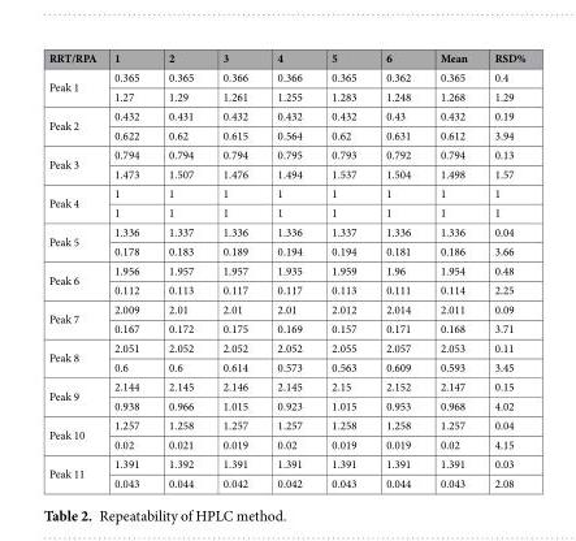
<table><thead><tr><td>RRT/RPA</td><td>1</td><td>2</td><td>3</td><td>4</td><td>5</td><td>6</td><td>Mean</td><td>RSD%</td></tr></thead><tbody><tr><td rowspan="2">Peak 1</td><td>0.365</td><td>0.365</td><td>0.366</td><td>0.366</td><td>0.365</td><td>0.362</td><td>0.365</td><td>0.4</td></tr><tr><td>1.27</td><td>1.29</td><td>1.261</td><td>1.255</td><td>1.283</td><td>1.248</td><td>1.268</td><td>1.29</td></tr><tr><td rowspan="2">Peak 2</td><td>0.432</td><td>0.431</td><td>0.432</td><td>0.432</td><td>0.432</td><td>0.43</td><td>0.432</td><td>0.19</td></tr><tr><td>0.622</td><td>0.62</td><td>0.615</td><td>0.564</td><td>0.62</td><td>0.631</td><td>0.612</td><td>3.94</td></tr><tr><td rowspan="2">Peak 3</td><td>0.794</td><td>0.794</td><td>0.794</td><td>0.795</td><td>0.793</td><td>0.792</td><td>0.794</td><td>0.13</td></tr><tr><td>1.473</td><td>1.507</td><td>1.476</td><td>1.494</td><td>1.537</td><td>1.504</td><td>1.498</td><td>1.57</td></tr><tr><td rowspan="2">Peak 4</td><td>1</td><td>1</td><td>1</td><td>1</td><td>1</td><td>1</td><td>1</td><td>1</td></tr><tr><td>1</td><td>1</td><td>1</td><td>1</td><td>1</td><td>1</td><td>1</td><td>1</td></tr><tr><td rowspan="2">Peak 5</td><td>1.336</td><td>1.337</td><td>1.336</td><td>1.336</td><td>1.337</td><td>1.336</td><td>1.336</td><td>0.04</td></tr><tr><td>0.178</td><td>0.183</td><td>0.189</td><td>0.194</td><td>0.194</td><td>0.181</td><td>0.186</td><td>3.66</td></tr><tr><td rowspan="2">Peak 6</td><td>1.956</td><td>1.957</td><td>1.957</td><td>1.935</td><td>1.959</td><td>1.96</td><td>1.954</td><td>0.48</td></tr><tr><td>0.112</td><td>0.113</td><td>0.117</td><td>0.117</td><td>0.113</td><td>0.111</td><td>0.114</td><td>2.25</td></tr><tr><td rowspan="2">Peak 7</td><td>2.009</td><td>2.01</td><td>2.01</td><td>2.01</td><td>2.012</td><td>2.014</td><td>2.011</td><td>0.09</td></tr><tr><td>0.167</td><td>0.172</td><td>0.175</td><td>0.169</td><td>0.157</td><td>0.171</td><td>0.168</td><td>3.71</td></tr><tr><td rowspan="2">Peak 8</td><td>2.051</td><td>2.052</td><td>2.052</td><td>2.052</td><td>2.055</td><td>2.057</td><td>2.053</td><td>0.11</td></tr><tr><td>0.6</td><td>0.6</td><td>0.614</td><td>0.573</td><td>0.563</td><td>0.609</td><td>0.593</td><td>3.45</td></tr><tr><td rowspan="2">Peak 9</td><td>2.144</td><td>2.145</td><td>2.146</td><td>2.145</td><td>2.15</td><td>2.152</td><td>2.147</td><td>0.15</td></tr><tr><td>0.938</td><td>0.966</td><td>1.015</td><td>0.923</td><td>1.015</td><td>0.953</td><td>0.968</td><td>4.02</td></tr><tr><td rowspan="2">Peak 10</td><td>1.257</td><td>1.258</td><td>1.257</td><td>1.257</td><td>1.258</td><td>1.258</td><td>1.257</td><td>0.04</td></tr><tr><td>0.02</td><td>0.021</td><td>0.019</td><td>0.02</td><td>0.019</td><td>0.019</td><td>0.02</td><td>4.15</td></tr><tr><td rowspan="2">Peak 11</td><td>1.391</td><td>1.392</td><td>1.391</td><td>1.391</td><td>1.391</td><td>1.391</td><td>1.391</td><td>0.03</td></tr><tr><td>0.043</td><td>0.044</td><td>0.042</td><td>0.042</td><td>0.043</td><td>0.044</td><td>0.043</td><td>2.08</td></tr></tbody></table>